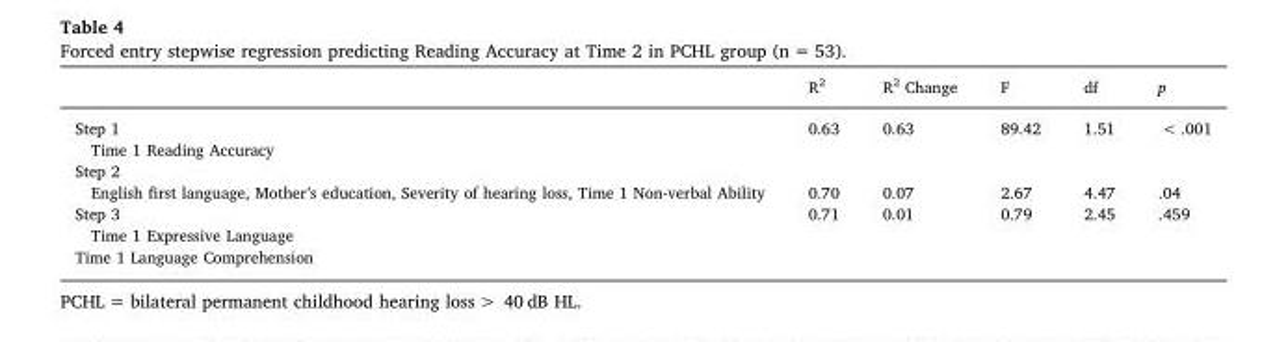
<table><thead><tr><td></td><td>R<sup>2</sup></td><td>R<sup>2</sup> Change</td><td>F</td><td>df</td><td>p</td></tr></thead><tbody><tr><td>Step 1</td><td>0.63</td><td>0.63</td><td>89.42</td><td>1.51</td><td>&lt; .001</td></tr><tr><td colspan="6">Time 1 Reading Accuracy</td></tr><tr><td colspan="6">Step 2</td></tr><tr><td>English first language, Mother’s education, Severity of hearing loss, Time 1 Non-verbal Ability</td><td>0.70</td><td>0.07</td><td>2.67</td><td>4.47</td><td>.04</td></tr><tr><td>Step 3</td><td>0.71</td><td>0.01</td><td>0.79</td><td>2.45</td><td>.459</td></tr><tr><td colspan="6">Time 1 Expressive Language</td></tr><tr><td>Time 1 Language Comprehension</td><td></td><td></td><td></td><td></td><td></td></tr></tbody></table>